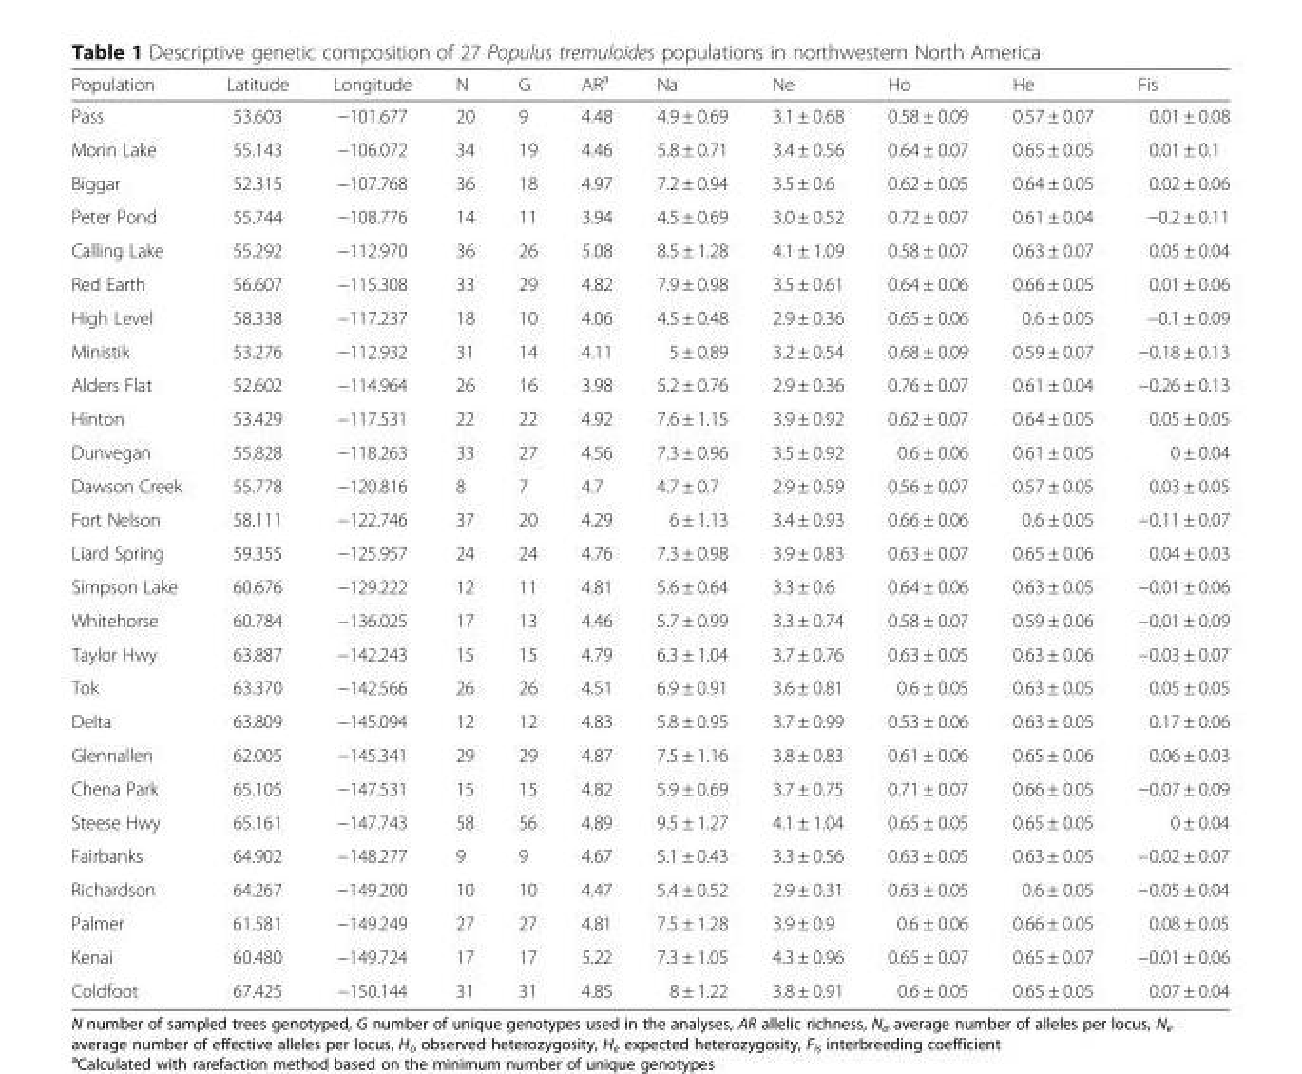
<table><thead><tr><td>Population</td><td>Latitude</td><td>Longitude</td><td>N</td><td>G</td><td>AR<sup>a</sup></td><td>Na</td><td>Ne</td><td>Ho</td><td>He</td><td>Fis</td></tr></thead><tbody><tr><td>Pass</td><td>53.603</td><td>−101.677</td><td>20</td><td>9</td><td>4.48</td><td>4.9 ± 0.69</td><td>3.1 ± 0.68</td><td>0.58 ± 0.09</td><td>0.57 ± 0.07</td><td>0.01 ± 0.08</td></tr><tr><td>Morin Lake</td><td>55.143</td><td>−106.072</td><td>34</td><td>19</td><td>4.46</td><td>5.8 ± 0.71</td><td>3.4 ± 0.56</td><td>0.64 ± 0.07</td><td>0.65 ± 0.05</td><td>0.01 ± 0.1</td></tr><tr><td>Biggar</td><td>52.315</td><td>−107.768</td><td>36</td><td>18</td><td>4.97</td><td>7.2 ± 0.94</td><td>3.5 ± 0.6</td><td>0.62 ± 0.05</td><td>0.64 ± 0.05</td><td>0.02 ± 0.06</td></tr><tr><td>Peter Pond</td><td>55.744</td><td>−108.776</td><td>14</td><td>11</td><td>3.94</td><td>4.5 ± 0.69</td><td>3.0 ± 0.52</td><td>0.72 ± 0.07</td><td>0.61 ± 0.04</td><td>−0.2 ± 0.11</td></tr><tr><td>Calling Lake</td><td>55.292</td><td>−112.970</td><td>36</td><td>26</td><td>5.08</td><td>8.5 ± 1.28</td><td>4.1 ± 1.09</td><td>0.58 ± 0.07</td><td>0.63 ± 0.07</td><td>0.05 ± 0.04</td></tr><tr><td>Red Earth</td><td>56.607</td><td>−115.308</td><td>33</td><td>29</td><td>4.82</td><td>7.9 ± 0.98</td><td>3.5 ± 0.61</td><td>0.64 ± 0.06</td><td>0.66 ± 0.05</td><td>0.01 ± 0.06</td></tr><tr><td>High Level</td><td>58.338</td><td>−117.237</td><td>18</td><td>10</td><td>4.06</td><td>4.5 ± 0.48</td><td>2.9 ± 0.36</td><td>0.65 ± 0.06</td><td>0.6 ± 0.05</td><td>−0.1 ± 0.09</td></tr><tr><td>Ministik</td><td>53.276</td><td>−112.932</td><td>31</td><td>14</td><td>4.11</td><td>5 ± 0.89</td><td>3.2 ± 0.54</td><td>0.68 ± 0.09</td><td>0.59 ± 0.07</td><td>−0.18 ± 0.13</td></tr><tr><td>Alders Flat</td><td>52.602</td><td>−114.964</td><td>26</td><td>16</td><td>3.98</td><td>5.2 ± 0.76</td><td>2.9 ± 0.36</td><td>0.76 ± 0.07</td><td>0.61 ± 0.04</td><td>−0.26 ± 0.13</td></tr><tr><td>Hinton</td><td>53.429</td><td>−117.531</td><td>22</td><td>22</td><td>4.92</td><td>7.6 ± 1.15</td><td>3.9 ± 0.92</td><td>0.62 ± 0.07</td><td>0.64 ± 0.05</td><td>0.05 ± 0.05</td></tr><tr><td>Dunvegan</td><td>55.828</td><td>−118.263</td><td>33</td><td>27</td><td>4.56</td><td>7.3 ± 0.96</td><td>3.5 ± 0.92</td><td>0.6 ± 0.06</td><td>0.61 ± 0.05</td><td>0 ± 0.04</td></tr><tr><td>Dawson Creek</td><td>55.778</td><td>−120.816</td><td>8</td><td>7</td><td>4.7</td><td>4.7 ± 0.7</td><td>2.9 ± 0.59</td><td>0.56 ± 0.07</td><td>0.57 ± 0.05</td><td>0.03 ± 0.05</td></tr><tr><td>Fort Nelson</td><td>58.111</td><td>−122.746</td><td>37</td><td>20</td><td>4.29</td><td>6 ± 1.13</td><td>3.4 ± 0.93</td><td>0.66 ± 0.06</td><td>0.6 ± 0.05</td><td>−0.11 ± 0.07</td></tr><tr><td>Liard Spring</td><td>59.355</td><td>−125.957</td><td>24</td><td>24</td><td>4.76</td><td>7.3 ± 0.98</td><td>3.9 ± 0.83</td><td>0.63 ± 0.07</td><td>0.65 ± 0.06</td><td>0.04 ± 0.03</td></tr><tr><td>Simpson Lake</td><td>60.676</td><td>−129.222</td><td>12</td><td>11</td><td>4.81</td><td>5.6 ± 0.64</td><td>3.3 ± 0.6</td><td>0.64 ± 0.06</td><td>0.63 ± 0.05</td><td>−0.01 ± 0.06</td></tr><tr><td>Whitehorse</td><td>60.784</td><td>−136.025</td><td>17</td><td>13</td><td>4.46</td><td>5.7 ± 0.99</td><td>3.3 ± 0.74</td><td>0.58 ± 0.07</td><td>0.59 ± 0.06</td><td>−0.01 ± 0.09</td></tr><tr><td>Taylor Hwy</td><td>63.887</td><td>−142.243</td><td>15</td><td>15</td><td>4.79</td><td>6.3 ± 1.04</td><td>3.7 ± 0.76</td><td>0.63 ± 0.05</td><td>0.63 ± 0.06</td><td>−0.03 ± 0.07</td></tr><tr><td>Tok</td><td>63.370</td><td>−142.566</td><td>26</td><td>26</td><td>4.51</td><td>6.9 ± 0.91</td><td>3.6 ± 0.81</td><td>0.6 ± 0.05</td><td>0.63 ± 0.05</td><td>0.05 ± 0.05</td></tr><tr><td>Delta</td><td>63.809</td><td>−145.094</td><td>12</td><td>12</td><td>4.83</td><td>5.8 ± 0.95</td><td>3.7 ± 0.99</td><td>0.53 ± 0.06</td><td>0.63 ± 0.05</td><td>0.17 ± 0.06</td></tr><tr><td>Glennallen</td><td>62.005</td><td>−145.341</td><td>29</td><td>29</td><td>4.87</td><td>7.5 ± 1.16</td><td>3.8 ± 0.83</td><td>0.61 ± 0.06</td><td>0.65 ± 0.06</td><td>0.06 ± 0.03</td></tr><tr><td>Chena Park</td><td>65.105</td><td>−147.531</td><td>15</td><td>15</td><td>4.82</td><td>5.9 ± 0.69</td><td>3.7 ± 0.75</td><td>0.71 ± 0.07</td><td>0.66 ± 0.05</td><td>−0.07 ± 0.09</td></tr><tr><td>Steese Hwy</td><td>65.161</td><td>−147.743</td><td>58</td><td>56</td><td>4.89</td><td>9.5 ± 1.27</td><td>4.1 ± 1.04</td><td>0.65 ± 0.05</td><td>0.65 ± 0.05</td><td>0 ± 0.04</td></tr><tr><td>Fairbanks</td><td>64.902</td><td>−148.277</td><td>9</td><td>9</td><td>4.67</td><td>5.1 ± 0.43</td><td>3.3 ± 0.56</td><td>0.63 ± 0.05</td><td>0.63 ± 0.05</td><td>−0.02 ± 0.07</td></tr><tr><td>Richardson</td><td>64.267</td><td>−149.200</td><td>10</td><td>10</td><td>4.47</td><td>5.4 ± 0.52</td><td>2.9 ± 0.31</td><td>0.63 ± 0.05</td><td>0.6 ± 0.05</td><td>−0.05 ± 0.04</td></tr><tr><td>Palmer</td><td>61.581</td><td>−149.249</td><td>27</td><td>27</td><td>4.81</td><td>7.5 ± 1.28</td><td>3.9 ± 0.9</td><td>0.6 ± 0.06</td><td>0.66 ± 0.05</td><td>0.08 ± 0.05</td></tr><tr><td>Kenai</td><td>60.480</td><td>−149.724</td><td>17</td><td>17</td><td>5.22</td><td>7.3 ± 1.05</td><td>4.3 ± 0.96</td><td>0.65 ± 0.07</td><td>0.65 ± 0.07</td><td>−0.01 ± 0.06</td></tr><tr><td>Coldfoot</td><td>67.425</td><td>−150.144</td><td>31</td><td>31</td><td>4.85</td><td>8 ± 1.22</td><td>3.8 ± 0.91</td><td>0.6 ± 0.05</td><td>0.65 ± 0.05</td><td>0.07 ± 0.04</td></tr></tbody></table>